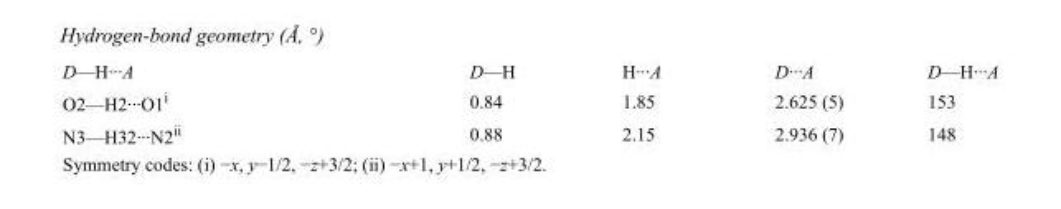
<table><tbody><tr><td>D—H···A</td><td>D—H</td><td>H···A</td><td>D···A</td><td>D—H···A</td></tr><tr><td>O2—H2···O1<sup>i</sup></td><td>0.84</td><td>1.85</td><td>2.625 (5)</td><td>153</td></tr><tr><td>N3—H32···N2<sup>ii</sup></td><td>0.88</td><td>2.15</td><td>2.936 (7)</td><td>148</td></tr></tbody></table>